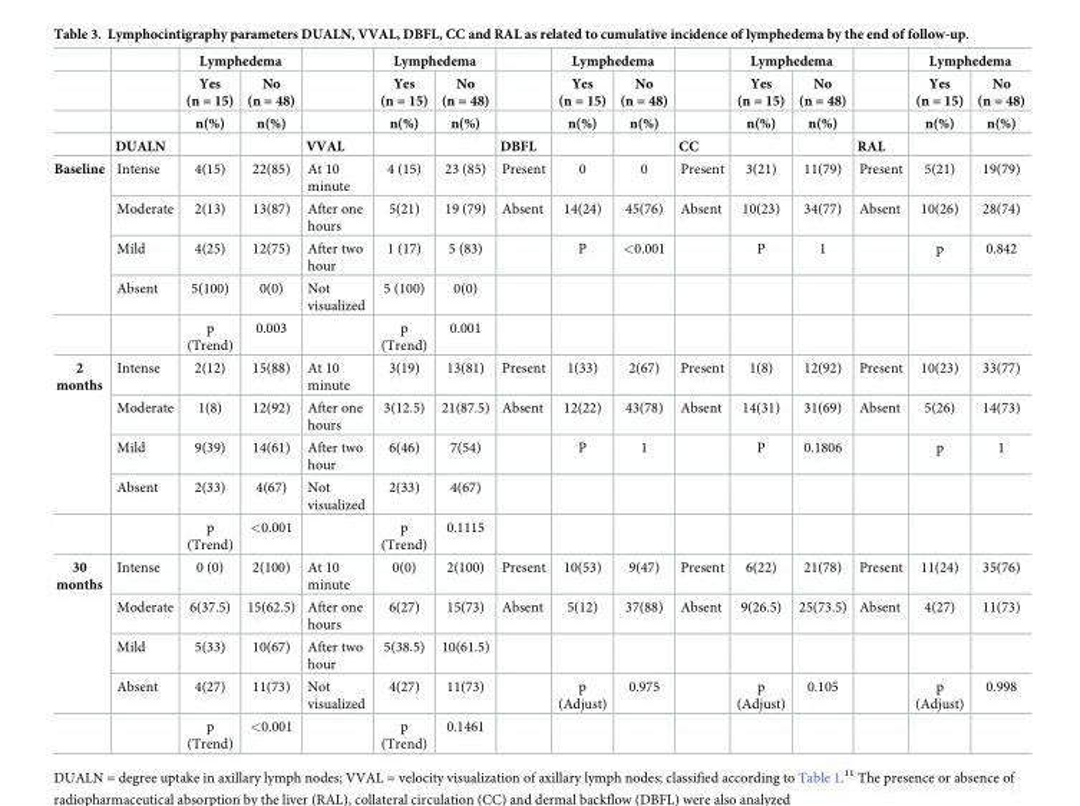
<table><thead><tr><td rowspan="4"></td><td rowspan="4">DUALN</td><td colspan="2">Lymphedema</td><td rowspan="4">VVAL</td><td colspan="2">Lymphedema</td><td rowspan="4">DBFL</td><td colspan="2">Lymphedema</td><td rowspan="4">CC</td><td colspan="2">Lymphedema</td><td rowspan="4">RAL</td><td colspan="2">Lymphedema</td></tr><tr><td rowspan="3">Yes (n = 15) n(%)</td><td rowspan="3">No (n = 48) n(%)</td><td rowspan="3">Yes (n = 15) n(%)</td><td rowspan="3">No (n = 48) n(%)</td><td rowspan="3">Yes (n = 15) n(%)</td><td rowspan="3">No (n = 48) n(%)</td><td rowspan="3">Yes (n = 15) n(%)</td><td rowspan="3">No (n = 48) n(%)</td><td rowspan="3">Yes (n = 15) n(%)</td><td rowspan="3">No (n = 48) n(%)</td></tr><tr></tr><tr></tr></thead><tbody><tr><td rowspan="5">Baseline</td><td>Intense</td><td>4(15)</td><td>22(85)</td><td>At 10 minute</td><td>4 (15)</td><td>23 (85)</td><td>Present</td><td>0</td><td>0</td><td>Present</td><td>3(21)</td><td>11(79)</td><td>Present</td><td>5(21)</td><td>19(79)</td></tr><tr><td>Moderate</td><td>2(13)</td><td>13(87)</td><td>After one hours</td><td>5(21)</td><td>19 (79)</td><td>Absent</td><td>14(24)</td><td>45(76)</td><td>Absent</td><td>10(23)</td><td>34(77)</td><td>Absent</td><td>10(26)</td><td>28(74)</td></tr><tr><td>Mild</td><td>4(25)</td><td>12(75)</td><td>After two hour</td><td>1 (17)</td><td>5 (83)</td><td></td><td>P</td><td>&lt;0.001</td><td></td><td>P</td><td>1</td><td></td><td>p</td><td>0.842</td></tr><tr><td>Absent</td><td>5(100)</td><td>0(0)</td><td>Not visualized</td><td>5 (100)</td><td>0(0)</td><td></td><td></td><td></td><td></td><td></td><td></td><td></td><td></td><td></td></tr><tr><td></td><td>p (Trend)</td><td>0.003</td><td></td><td>p (Trend)</td><td>0.001</td><td></td><td></td><td></td><td></td><td></td><td></td><td></td><td></td><td></td></tr><tr><td rowspan="5">2 months</td><td>Intense</td><td>2(12)</td><td>15(88)</td><td>At 10 minute</td><td>3(19)</td><td>13(81)</td><td>Present</td><td>1(33)</td><td>2(67)</td><td>Present</td><td>1(8)</td><td>12(92)</td><td>Present</td><td>10(23)</td><td>33(77)</td></tr><tr><td>Moderate</td><td>1(8)</td><td>12(92)</td><td>After one hours</td><td>3(12.5)</td><td>21(87.5)</td><td>Absent</td><td>12(22)</td><td>43(78)</td><td>Absent</td><td>14(31)</td><td>31(69)</td><td>Absent</td><td>5(26)</td><td>14(73)</td></tr><tr><td>Mild</td><td>9(39)</td><td>14(61)</td><td>After two hour</td><td>6(46)</td><td>7(54)</td><td></td><td>P</td><td>1</td><td></td><td>P</td><td>0.1806</td><td></td><td>p</td><td>1</td></tr><tr><td>Absent</td><td>2(33)</td><td>4(67)</td><td>Not visualized</td><td>2(33)</td><td>4(67)</td><td></td><td></td><td></td><td></td><td></td><td></td><td></td><td></td><td></td></tr><tr><td></td><td>p (Trend)</td><td>&lt;0.001</td><td></td><td>p (Trend)</td><td>0.1115</td><td></td><td></td><td></td><td></td><td></td><td></td><td></td><td></td><td></td></tr><tr><td rowspan="5">30 months</td><td>Intense</td><td>0 (0)</td><td>2(100)</td><td>At 10 minute</td><td>0(0)</td><td>2(100)</td><td>Present</td><td>10(53)</td><td>9(47)</td><td>Present</td><td>6(22)</td><td>21(78)</td><td>Present</td><td>11(24)</td><td>35(76)</td></tr><tr><td>Moderate</td><td>6(37.5)</td><td>15(62.5)</td><td>After one hours</td><td>6(27)</td><td>15(73)</td><td>Absent</td><td>5(12)</td><td>37(88)</td><td>Absent</td><td>9(26.5)</td><td>25(73.5)</td><td>Absent</td><td>4(27)</td><td>11(73)</td></tr><tr><td>Mild</td><td>5(33)</td><td>10(67)</td><td>After two hour</td><td>5(38.5)</td><td>10(61.5)</td><td></td><td></td><td></td><td></td><td></td><td></td><td></td><td></td><td></td></tr><tr><td>Absent</td><td>4(27)</td><td>11(73)</td><td>Not visualized</td><td>4(27)</td><td>11(73)</td><td></td><td>p (Adjust)</td><td>0.975</td><td></td><td>p (Adjust)</td><td>0.105</td><td></td><td>p (Adjust)</td><td>0.998</td></tr><tr><td></td><td>p (Trend)</td><td>&lt;0.001</td><td></td><td>p (Trend)</td><td>0.1461</td><td></td><td></td><td></td><td></td><td></td><td></td><td></td><td></td><td></td></tr></tbody></table>